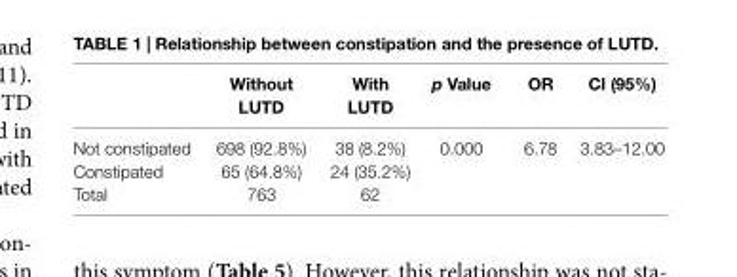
<table><thead><tr><td></td><td>Without lUTD</td><td>With lUTD</td><td>p Value</td><td>Or</td><td>ci (95%)</td></tr></thead><tbody><tr><td>Not constipated</td><td>698 (92.8%)</td><td>38 (8.2%)</td><td>0.000</td><td>6.78</td><td>3.83–12.00</td></tr><tr><td>Constipated</td><td>65 (64.8%)</td><td>24 (35.2%)</td><td></td><td></td><td></td></tr><tr><td>Total</td><td>763</td><td>62</td><td></td><td></td><td></td></tr></tbody></table>